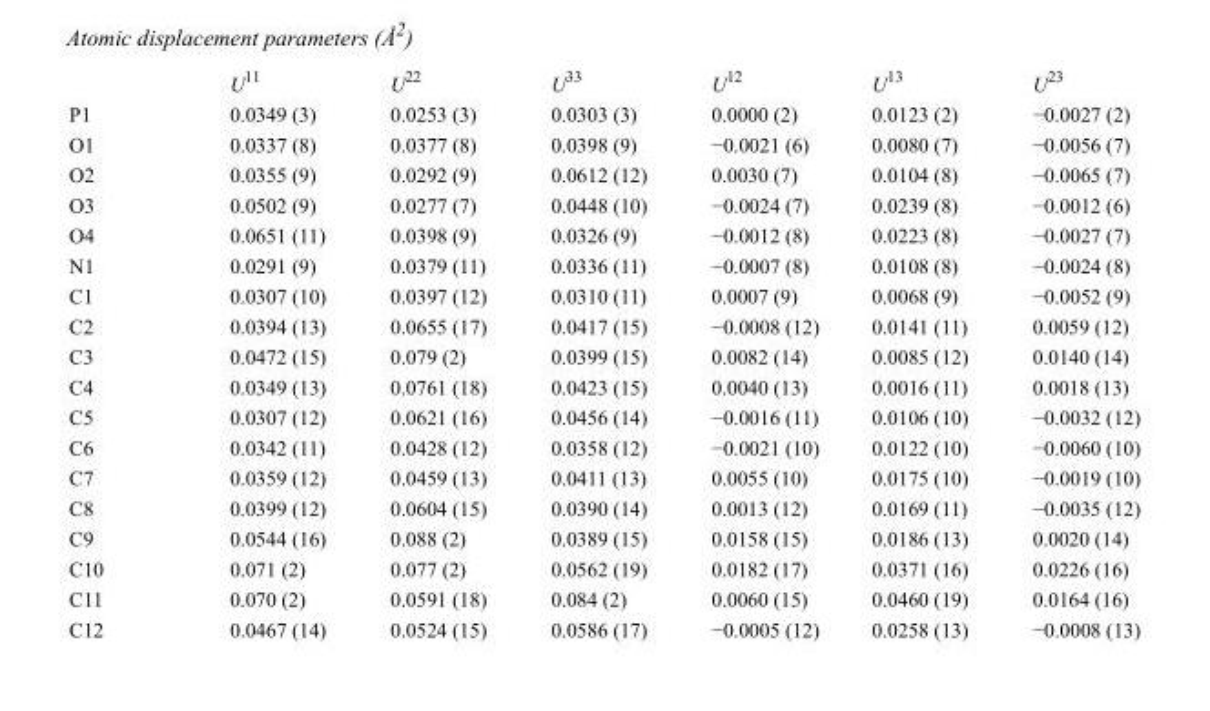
<table><thead><tr><td></td><td>U<sup>11</sup></td><td>U<sup>22</sup></td><td>U<sup>33</sup></td><td>U<sup>12</sup></td><td>U<sup>13</sup></td><td>U<sup>23</sup></td></tr></thead><tbody><tr><td>P1</td><td>0.0349 (3)</td><td>0.0253 (3)</td><td>0.0303 (3)</td><td>0.0000 (2)</td><td>0.0123 (2)</td><td>−0.0027 (2)</td></tr><tr><td>O1</td><td>0.0337 (8)</td><td>0.0377 (8)</td><td>0.0398 (9)</td><td>−0.0021 (6)</td><td>0.0080 (7)</td><td>−0.0056 (7)</td></tr><tr><td>O2</td><td>0.0355 (9)</td><td>0.0292 (9)</td><td>0.0612 (12)</td><td>0.0030 (7)</td><td>0.0104 (8)</td><td>−0.0065 (7)</td></tr><tr><td>O3</td><td>0.0502 (9)</td><td>0.0277 (7)</td><td>0.0448 (10)</td><td>−0.0024 (7)</td><td>0.0239 (8)</td><td>−0.0012 (6)</td></tr><tr><td>O4</td><td>0.0651 (11)</td><td>0.0398 (9)</td><td>0.0326 (9)</td><td>−0.0012 (8)</td><td>0.0223 (8)</td><td>−0.0027 (7)</td></tr><tr><td>N1</td><td>0.0291 (9)</td><td>0.0379 (11)</td><td>0.0336 (11)</td><td>−0.0007 (8)</td><td>0.0108 (8)</td><td>−0.0024 (8)</td></tr><tr><td>C1</td><td>0.0307 (10)</td><td>0.0397 (12)</td><td>0.0310 (11)</td><td>0.0007 (9)</td><td>0.0068 (9)</td><td>−0.0052 (9)</td></tr><tr><td>C2</td><td>0.0394 (13)</td><td>0.0655 (17)</td><td>0.0417 (15)</td><td>−0.0008 (12)</td><td>0.0141 (11)</td><td>0.0059 (12)</td></tr><tr><td>C3</td><td>0.0472 (15)</td><td>0.079 (2)</td><td>0.0399 (15)</td><td>0.0082 (14)</td><td>0.0085 (12)</td><td>0.0140 (14)</td></tr><tr><td>C4</td><td>0.0349 (13)</td><td>0.0761 (18)</td><td>0.0423 (15)</td><td>0.0040 (13)</td><td>0.0016 (11)</td><td>0.0018 (13)</td></tr><tr><td>C5</td><td>0.0307 (12)</td><td>0.0621 (16)</td><td>0.0456 (14)</td><td>−0.0016 (11)</td><td>0.0106 (10)</td><td>−0.0032 (12)</td></tr><tr><td>C6</td><td>0.0342 (11)</td><td>0.0428 (12)</td><td>0.0358 (12)</td><td>−0.0021 (10)</td><td>0.0122 (10)</td><td>−0.0060 (10)</td></tr><tr><td>C7</td><td>0.0359 (12)</td><td>0.0459 (13)</td><td>0.0411 (13)</td><td>0.0055 (10)</td><td>0.0175 (10)</td><td>−0.0019 (10)</td></tr><tr><td>C8</td><td>0.0399 (12)</td><td>0.0604 (15)</td><td>0.0390 (14)</td><td>0.0013 (12)</td><td>0.0169 (11)</td><td>−0.0035 (12)</td></tr><tr><td>C9</td><td>0.0544 (16)</td><td>0.088 (2)</td><td>0.0389 (15)</td><td>0.0158 (15)</td><td>0.0186 (13)</td><td>0.0020 (14)</td></tr><tr><td>C10</td><td>0.071 (2)</td><td>0.077 (2)</td><td>0.0562 (19)</td><td>0.0182 (17)</td><td>0.0371 (16)</td><td>0.0226 (16)</td></tr><tr><td>C11</td><td>0.070 (2)</td><td>0.0591 (18)</td><td>0.084 (2)</td><td>0.0060 (15)</td><td>0.0460 (19)</td><td>0.0164 (16)</td></tr><tr><td>C12</td><td>0.0467 (14)</td><td>0.0524 (15)</td><td>0.0586 (17)</td><td>−0.0005 (12)</td><td>0.0258 (13)</td><td>−0.0008 (13)</td></tr></tbody></table>